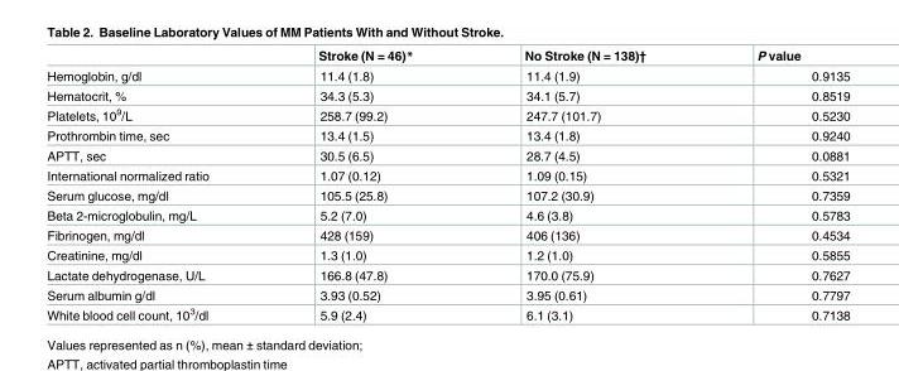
<table><thead><tr><td></td><td>Stroke (N = 46)*</td><td>No Stroke (N = 138)†</td><td>P value</td></tr></thead><tbody><tr><td>Hemoglobin, g/dl</td><td>11.4 (1.8)</td><td>11.4 (1.9)</td><td>0.9135</td></tr><tr><td>Hematocrit, %</td><td>34.3 (5.3)</td><td>34.1 (5.7)</td><td>0.8519</td></tr><tr><td>Platelets, 10<sup>9</sup>/L</td><td>258.7 (99.2)</td><td>247.7 (101.7)</td><td>0.5230</td></tr><tr><td>Prothrombin time, sec</td><td>13.4 (1.5)</td><td>13.4 (1.8)</td><td>0.9240</td></tr><tr><td>APTT, sec</td><td>30.5 (6.5)</td><td>28.7 (4.5)</td><td>0.0881</td></tr><tr><td>International normalized ratio</td><td>1.07 (0.12)</td><td>1.09 (0.15)</td><td>0.5321</td></tr><tr><td>Serum glucose, mg/dl</td><td>105.5 (25.8)</td><td>107.2 (30.9)</td><td>0.7359</td></tr><tr><td>Beta 2-microglobulin, mg/L</td><td>5.2 (7.0)</td><td>4.6 (3.8)</td><td>0.5783</td></tr><tr><td>Fibrinogen, mg/dl</td><td>428 (159)</td><td>406 (136)</td><td>0.4534</td></tr><tr><td>Creatinine, mg/dl</td><td>1.3 (1.0)</td><td>1.2 (1.0)</td><td>0.5855</td></tr><tr><td>Lactate dehydrogenase, U/L</td><td>166.8 (47.8)</td><td>170.0 (75.9)</td><td>0.7627</td></tr><tr><td>Serum albumin g/dl</td><td>3.93 (0.52)</td><td>3.95 (0.61)</td><td>0.7797</td></tr><tr><td>White blood cell count, 10<sup>3</sup>/dl</td><td>5.9 (2.4)</td><td>6.1 (3.1)</td><td>0.7138</td></tr></tbody></table>